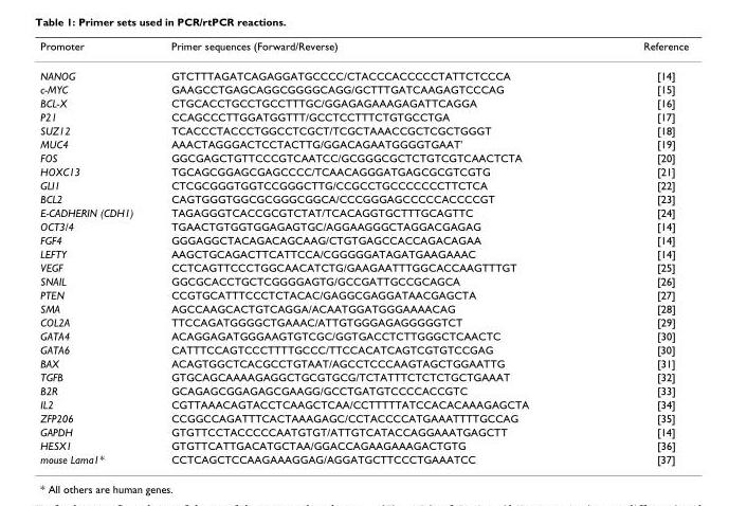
<table><thead><tr><td>Promoter</td><td>Primer sequences (Forward/Reverse)</td><td>Reference</td></tr></thead><tbody><tr><td>NANOG</td><td>GTCTTTAGATCAGAGGATGCCCC/CTACCCACCCCCTATTCTCCCA</td><td>[14]</td></tr><tr><td>c-MYC</td><td>GAAGCCTGAGCAGGCGGGGCAGG/GCTTTGATCAAGAGTCCCAG</td><td>[15]</td></tr><tr><td>BCL-X</td><td>CTGCACCTGCCTGCCTTTGC/GGAGAGAAAGAGATTCAGGA</td><td>[16]</td></tr><tr><td>P21</td><td>CCAGCCCTTGGATGGTTT/GCCTCCTTTCTGTGCCTGA</td><td>[17]</td></tr><tr><td>SUZ12</td><td>TCACCCTACCCTGGCCTCGCT/TCGCTAAACCGCTCGCTGGGT</td><td>[18]</td></tr><tr><td>MUC4</td><td>AAACTAGGGACTCCTACTTG/GGACAGAATGGGGTGAAT&#x27;</td><td>[19]</td></tr><tr><td>FOS</td><td>GGCGAGCTGTTCCCGTCAATCC/GCGGGCGCTCTGTCGTCAACTCTA</td><td>[20]</td></tr><tr><td>HOXC13</td><td>TGCAGCGGAGCGAGCCCC/TCAACAGGGATGAGCGCGTCGTG</td><td>[21]</td></tr><tr><td>GLI1</td><td>CTCGCGGGTGGTCCGGGCTTG/CCGCCTGCCCCCCCTTCTCA</td><td>[22]</td></tr><tr><td>BCL2</td><td>CAGTGGGTGGCGCGGGCGGCA/CCCGGGAGCCCCCACCCCGT</td><td>[23]</td></tr><tr><td>E-CADHERIN (CDH1)</td><td>TAGAGGGTCACCGCGTCTAT/TCACAGGTGCTTTGCAGTTC</td><td>[24]</td></tr><tr><td>OCT3/4</td><td>TGAACTGTGGTGGAGAGTGC/AGGAAGGGCTAGGACGAGAG</td><td>[14]</td></tr><tr><td>FGF4</td><td>GGGAGGCTACAGACAGCAAG/CTGTGAGCCACCAGACAGAA</td><td>[14]</td></tr><tr><td>LEFTY</td><td>AAGCTGCAGACTTCATTCCA/CGGGGGATAGATGAAGAAAC</td><td>[14]</td></tr><tr><td>VEGF</td><td>CCTCAGTTCCCTGGCAACATCTG/GAAGAATTTGGCACCAAGTTTGT</td><td>[25]</td></tr><tr><td>SNAIL</td><td>GGCGCACCTGCTCGGGGAGTG/GCCGATTGCCGCAGCA</td><td>[26]</td></tr><tr><td>PTEN</td><td>CCGTGCATTTCCCTCTACAC/GAGGCGAGGATAACGAGCTA</td><td>[27]</td></tr><tr><td>SMA</td><td>AGCCAAGCACTGTCAGGA/ACAATGGATGGGAAAACAG</td><td>[28]</td></tr><tr><td>COL2A</td><td>TTCCAGATGGGGCTGAAAC/ATTGTGGGAGAGGGGGTCT</td><td>[29]</td></tr><tr><td>GATA4</td><td>ACAGGAGATGGGAAGTGTCGC/GGTGACCTCTTGGGCTCAACTC</td><td>[30]</td></tr><tr><td>GATA6</td><td>CATTTCCAGTCCCTTTTGCCC/TTCCACATCAGTCGTGTCCGAG</td><td>[30]</td></tr><tr><td>BAX</td><td>ACAGTGGCTCACGCCTGTAAT/AGCCTCCCAAGTAGCTGGAATTG</td><td>[31]</td></tr><tr><td>TGFB</td><td>GTGCAGCAAAAGAGGCTGCGTGCG/TCTATTTCTCTCTGCTGAAAT</td><td>[32]</td></tr><tr><td>B2R</td><td>GCAGAGCGGAGAGCGAAGG/GCCTGATGTCCCCACCGTC</td><td>[33]</td></tr><tr><td>IL2</td><td>CGTTAAACAGTACCTCAAGCTCAA/CCTTTTTATCCACACAAAGAGCTA</td><td>[34]</td></tr><tr><td>ZFP206</td><td>CCGGCCAGATTTCACTAAAGAGC/CCTACCCCATGAAATTTTGCCAG</td><td>[35]</td></tr><tr><td>GAPDH</td><td>GTGTTCCTACCCCCAATGTGT/ATTGTCATACCAGGAAATGAGCTT</td><td>[14]</td></tr><tr><td>HESX1</td><td>GTGTTCATTGACATGCTAA/GGACCAGAAGAAAGACTGTG</td><td>[36]</td></tr><tr><td>mouse Lama1*</td><td>CCTCAGCTCCAAGAAAGGAG/AGGATGCTTCCCTGAAATCC</td><td>[37]</td></tr></tbody></table>